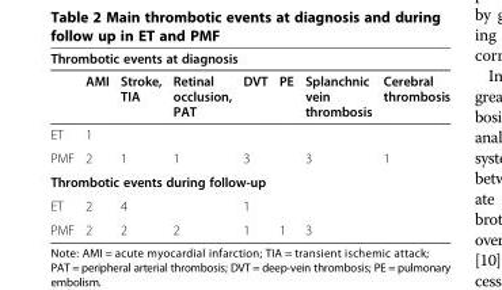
<table><thead><tr><td colspan="8">Thrombotic events at diagnosis</td></tr><tr><td></td><td>AMI</td><td>Stroke, TIA</td><td>Retinal occlusion, PAT</td><td>DVT</td><td>PE</td><td>Splanchnic vein thrombosis</td><td>Cerebral thrombosis</td></tr></thead><tbody><tr><td>ET</td><td>1</td><td></td><td></td><td></td><td></td><td></td><td></td></tr><tr><td>PMF</td><td>2</td><td>1</td><td>1</td><td>3</td><td></td><td>3</td><td>1</td></tr><tr><td colspan="8">Thrombotic events during follow-up</td></tr><tr><td>ET</td><td>2</td><td>4</td><td></td><td>1</td><td></td><td></td><td></td></tr><tr><td>PMF</td><td>2</td><td>2</td><td>2</td><td>1</td><td>1</td><td>3</td><td></td></tr></tbody></table>